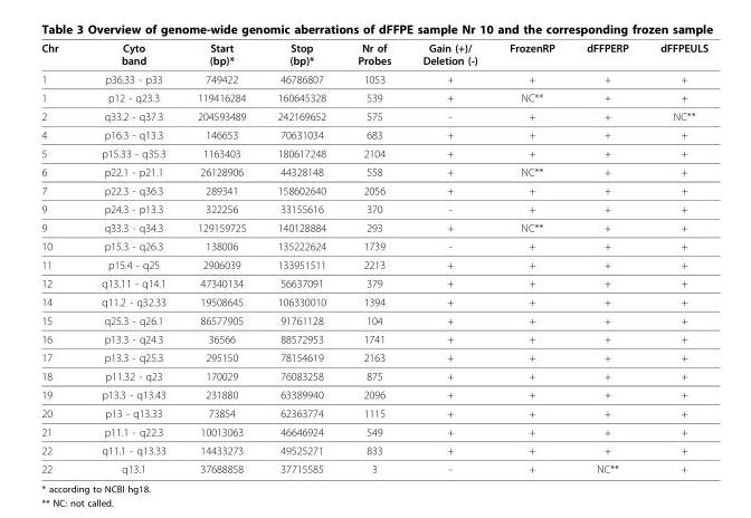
<table><thead><tr><td>Chr</td><td>Cyto band</td><td>Start (bp)*</td><td>Stop (bp)*</td><td>Nr of Probes</td><td>Gain (+)/ Deletion (-)</td><td>FrozenRP</td><td>dFFPERP</td><td>dFFPEULS</td></tr></thead><tbody><tr><td>1</td><td>p36.33 - p33</td><td>749422</td><td>46786807</td><td>1053</td><td>+</td><td>+</td><td>+</td><td>+</td></tr><tr><td>1</td><td>p12 - q23.3</td><td>119416284</td><td>160645328</td><td>539</td><td>+</td><td>NC**</td><td>+</td><td>+</td></tr><tr><td>2</td><td>q33.2 - q37.3</td><td>204593489</td><td>242169652</td><td>575</td><td>-</td><td>+</td><td>+</td><td>NC**</td></tr><tr><td>4</td><td>p16.3 - q13.3</td><td>146653</td><td>70631034</td><td>683</td><td>+</td><td>+</td><td>+</td><td>+</td></tr><tr><td>5</td><td>p15.33 - q35.3</td><td>1163403</td><td>180617248</td><td>2104</td><td>+</td><td>+</td><td>+</td><td>+</td></tr><tr><td>6</td><td>p22.1 - p21.1</td><td>26128906</td><td>44328148</td><td>558</td><td>+</td><td>NC**</td><td>+</td><td>+</td></tr><tr><td>7</td><td>p22.3 - q36.3</td><td>289341</td><td>158602640</td><td>2056</td><td>+</td><td>+</td><td>+</td><td>+</td></tr><tr><td>9</td><td>p24.3 - p13.3</td><td>322256</td><td>33155616</td><td>370</td><td>-</td><td>+</td><td>+</td><td>+</td></tr><tr><td>9</td><td>q33.3 - q34.3</td><td>129159725</td><td>140128884</td><td>293</td><td>+</td><td>NC**</td><td>+</td><td>+</td></tr><tr><td>10</td><td>p15.3 - q26.3</td><td>138006</td><td>135222624</td><td>1739</td><td>-</td><td>+</td><td>+</td><td>+</td></tr><tr><td>11</td><td>p15.4 - q25</td><td>2906039</td><td>133951511</td><td>2213</td><td>+</td><td>+</td><td>+</td><td>+</td></tr><tr><td>12</td><td>q13.11 - q14.1</td><td>47340134</td><td>56637091</td><td>379</td><td>+</td><td>+</td><td>+</td><td>+</td></tr><tr><td>14</td><td>q11.2 - q32.33</td><td>19508645</td><td>106330010</td><td>1394</td><td>+</td><td>+</td><td>+</td><td>+</td></tr><tr><td>15</td><td>q25.3 - q26.1</td><td>86577905</td><td>91761128</td><td>104</td><td>+</td><td>+</td><td>+</td><td>+</td></tr><tr><td>16</td><td>p13.3 - q24.3</td><td>36566</td><td>88572953</td><td>1741</td><td>+</td><td>+</td><td>+</td><td>+</td></tr><tr><td>17</td><td>p13.3 - q25.3</td><td>295150</td><td>78154619</td><td>2163</td><td>+</td><td>+</td><td>+</td><td>+</td></tr><tr><td>18</td><td>p11.32 - q23</td><td>170029</td><td>76083258</td><td>875</td><td>+</td><td>+</td><td>+</td><td>+</td></tr><tr><td>19</td><td>p13.3 - q13.43</td><td>231880</td><td>63389940</td><td>2096</td><td>+</td><td>+</td><td>+</td><td>+</td></tr><tr><td>20</td><td>p13 - q13.33</td><td>73854</td><td>62363774</td><td>1115</td><td>+</td><td>+</td><td>+</td><td>+</td></tr><tr><td>21</td><td>p11.1 - q22.3</td><td>10013063</td><td>46646924</td><td>549</td><td>+</td><td>+</td><td>+</td><td>+</td></tr><tr><td>22</td><td>q11.1 - q13.33</td><td>14433273</td><td>49525271</td><td>833</td><td>+</td><td>+</td><td>+</td><td>+</td></tr><tr><td>22</td><td>q13.1</td><td>37688858</td><td>37715585</td><td>3</td><td>-</td><td>+</td><td>NC**</td><td>+</td></tr></tbody></table>